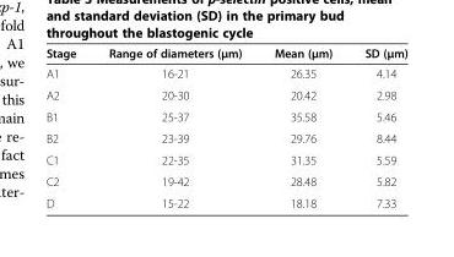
<table><thead><tr><td>Stage</td><td>Range of diameters (μm)</td><td>Mean (μm)</td><td>SD (μm)</td></tr></thead><tbody><tr><td>A1</td><td>16-21</td><td>26.35</td><td>4.14</td></tr><tr><td>A2</td><td>20-30</td><td>20.42</td><td>2.98</td></tr><tr><td>B1</td><td>25-37</td><td>35.58</td><td>5.46</td></tr><tr><td>B2</td><td>23-39</td><td>29.76</td><td>8.44</td></tr><tr><td>C1</td><td>22-35</td><td>31.35</td><td>5.59</td></tr><tr><td>C2</td><td>19-42</td><td>28.48</td><td>5.82</td></tr><tr><td>D</td><td>15-22</td><td>18.18</td><td>7.33</td></tr></tbody></table>